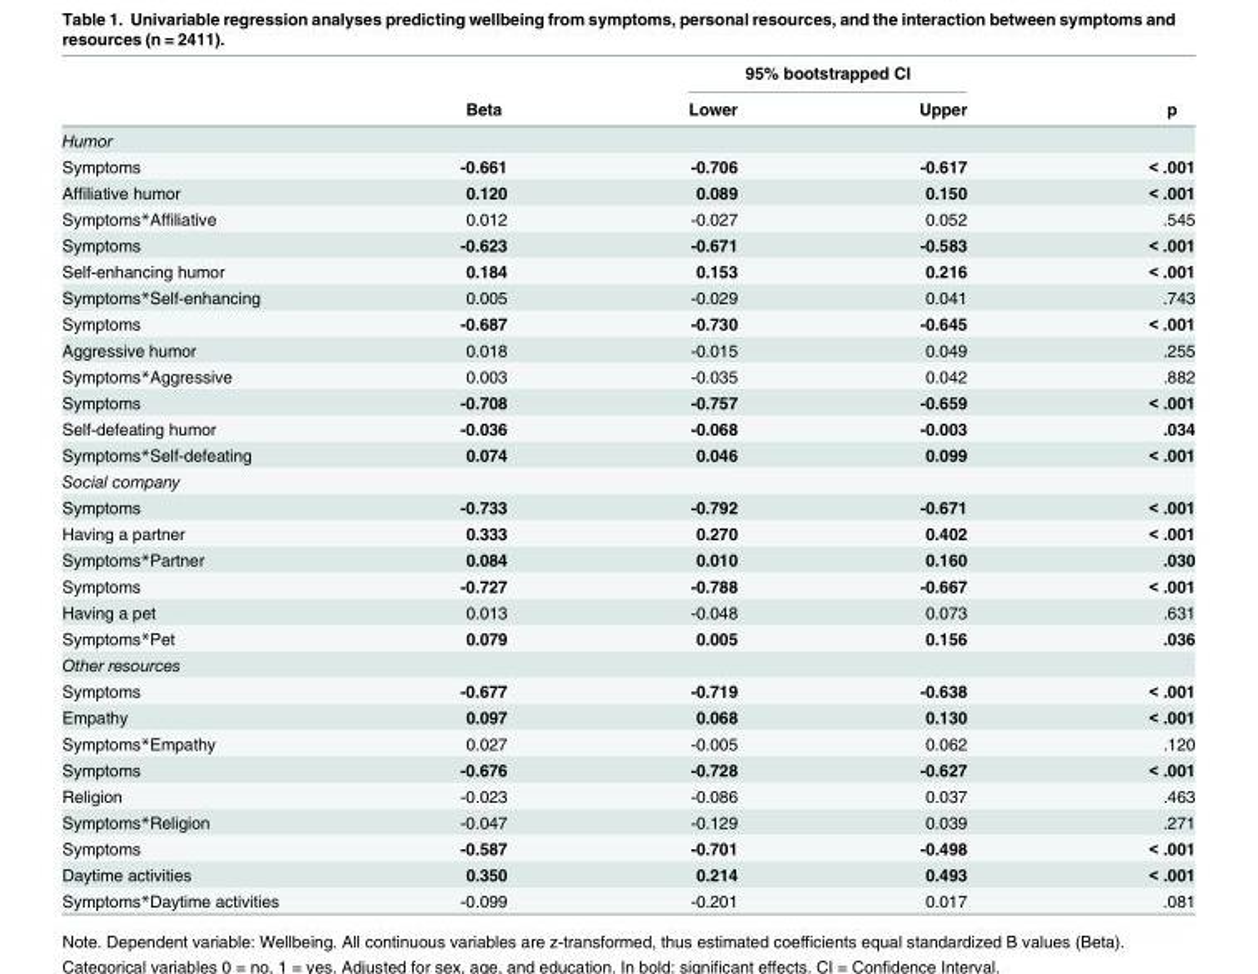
<table><thead><tr><td rowspan="2"></td><td rowspan="2">Beta</td><td colspan="2">95% bootstrapped CI</td><td rowspan="2">p</td></tr><tr><td>Lower</td><td>Upper</td></tr></thead><tbody><tr><td colspan="5">Humor</td></tr><tr><td>Symptoms</td><td>-0.661</td><td>-0.706</td><td>-0.617</td><td>&lt; .001</td></tr><tr><td>Affiliative humor</td><td>0.120</td><td>0.089</td><td>0.150</td><td>&lt; .001</td></tr><tr><td>Symptoms*Affiliative</td><td>0.012</td><td>-0.027</td><td>0.052</td><td>.545</td></tr><tr><td>Symptoms</td><td>-0.623</td><td>-0.671</td><td>-0.583</td><td>&lt; .001</td></tr><tr><td>Self-enhancing humor</td><td>0.184</td><td>0.153</td><td>0.216</td><td>&lt; .001</td></tr><tr><td>Symptoms*Self-enhancing</td><td>0.005</td><td>-0.029</td><td>0.041</td><td>.743</td></tr><tr><td>Symptoms</td><td>-0.687</td><td>-0.730</td><td>-0.645</td><td>&lt; .001</td></tr><tr><td>Aggressive humor</td><td>0.018</td><td>-0.015</td><td>0.049</td><td>.255</td></tr><tr><td>Symptoms*Aggressive</td><td>0.003</td><td>-0.035</td><td>0.042</td><td>.882</td></tr><tr><td>Symptoms</td><td>-0.708</td><td>-0.757</td><td>-0.659</td><td>&lt; .001</td></tr><tr><td>Self-defeating humor</td><td>-0.036</td><td>-0.068</td><td>-0.003</td><td>.034</td></tr><tr><td>Symptoms*Self-defeating</td><td>0.074</td><td>0.046</td><td>0.099</td><td>&lt; .001</td></tr><tr><td colspan="5">Social company</td></tr><tr><td>Symptoms</td><td>-0.733</td><td>-0.792</td><td>-0.671</td><td>&lt; .001</td></tr><tr><td>Having a partner</td><td>0.333</td><td>0.270</td><td>0.402</td><td>&lt; .001</td></tr><tr><td>Symptoms*Partner</td><td>0.084</td><td>0.010</td><td>0.160</td><td>.030</td></tr><tr><td>Symptoms</td><td>-0.727</td><td>-0.788</td><td>-0.667</td><td>&lt; .001</td></tr><tr><td>Having a pet</td><td>0.013</td><td>-0.048</td><td>0.073</td><td>.631</td></tr><tr><td>Symptoms*Pet</td><td>0.079</td><td>0.005</td><td>0.156</td><td>.036</td></tr><tr><td colspan="5">Other resources</td></tr><tr><td>Symptoms</td><td>-0.677</td><td>-0.719</td><td>-0.638</td><td>&lt; .001</td></tr><tr><td>Empathy</td><td>0.097</td><td>0.068</td><td>0.130</td><td>&lt; .001</td></tr><tr><td>Symptoms*Empathy</td><td>0.027</td><td>-0.005</td><td>0.062</td><td>.120</td></tr><tr><td>Symptoms</td><td>-0.676</td><td>-0.728</td><td>-0.627</td><td>&lt; .001</td></tr><tr><td>Religion</td><td>-0.023</td><td>-0.086</td><td>0.037</td><td>.463</td></tr><tr><td>Symptoms*Religion</td><td>-0.047</td><td>-0.129</td><td>0.039</td><td>.271</td></tr><tr><td>Symptoms</td><td>-0.587</td><td>-0.701</td><td>-0.498</td><td>&lt; .001</td></tr><tr><td>Daytime activities</td><td>0.350</td><td>0.214</td><td>0.493</td><td>&lt; .001</td></tr><tr><td>Symptoms*Daytime activities</td><td>-0.099</td><td>-0.201</td><td>0.017</td><td>.081</td></tr></tbody></table>